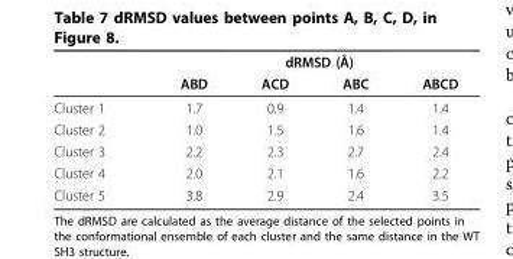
<table><thead><tr><td rowspan="2"></td><td colspan="4">dRMSD (Å)</td></tr><tr><td>ABD</td><td>ACD</td><td>ABC</td><td>ABCD</td></tr></thead><tbody><tr><td>Cluster 1</td><td>1.7</td><td>0.9</td><td>1.4</td><td>1.4</td></tr><tr><td>Cluster 2</td><td>1.0</td><td>1.5</td><td>1.6</td><td>1.4</td></tr><tr><td>Cluster 3</td><td>2.2</td><td>2.3</td><td>2.7</td><td>2.4</td></tr><tr><td>Cluster 4</td><td>2.0</td><td>2.1</td><td>1.6</td><td>2.2</td></tr><tr><td>Cluster 5</td><td>3.8</td><td>2.9</td><td>2.4</td><td>3.5</td></tr></tbody></table>